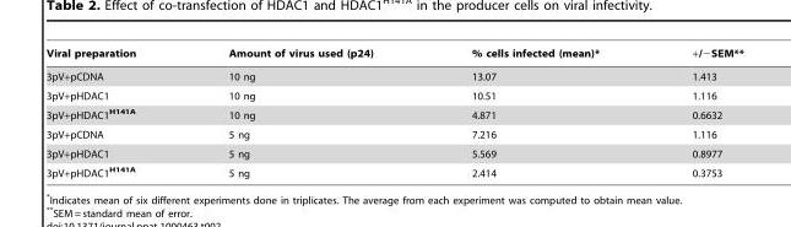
<table><thead><tr><td>Viral preparation</td><td>Amount of virus used (p24)</td><td>% cells infected (mean)*</td><td>+/−SEM**</td></tr></thead><tbody><tr><td>3pV+pCDNA</td><td>10 ng</td><td>13.07</td><td>1.413</td></tr><tr><td>3pV+pHDAC1</td><td>10 ng</td><td>10.51</td><td>1.116</td></tr><tr><td>3pV+pHDAC1<sup>H141A</sup></td><td>10 ng</td><td>4.871</td><td>0.6632</td></tr><tr><td>3pV+pCDNA</td><td>5 ng</td><td>7.216</td><td>1.116</td></tr><tr><td>3pV+pHDAC1</td><td>5 ng</td><td>5.569</td><td>0.8977</td></tr><tr><td>3pV+pHDAC1<sup>H141A</sup></td><td>5 ng</td><td>2.414</td><td>0.3753</td></tr></tbody></table>